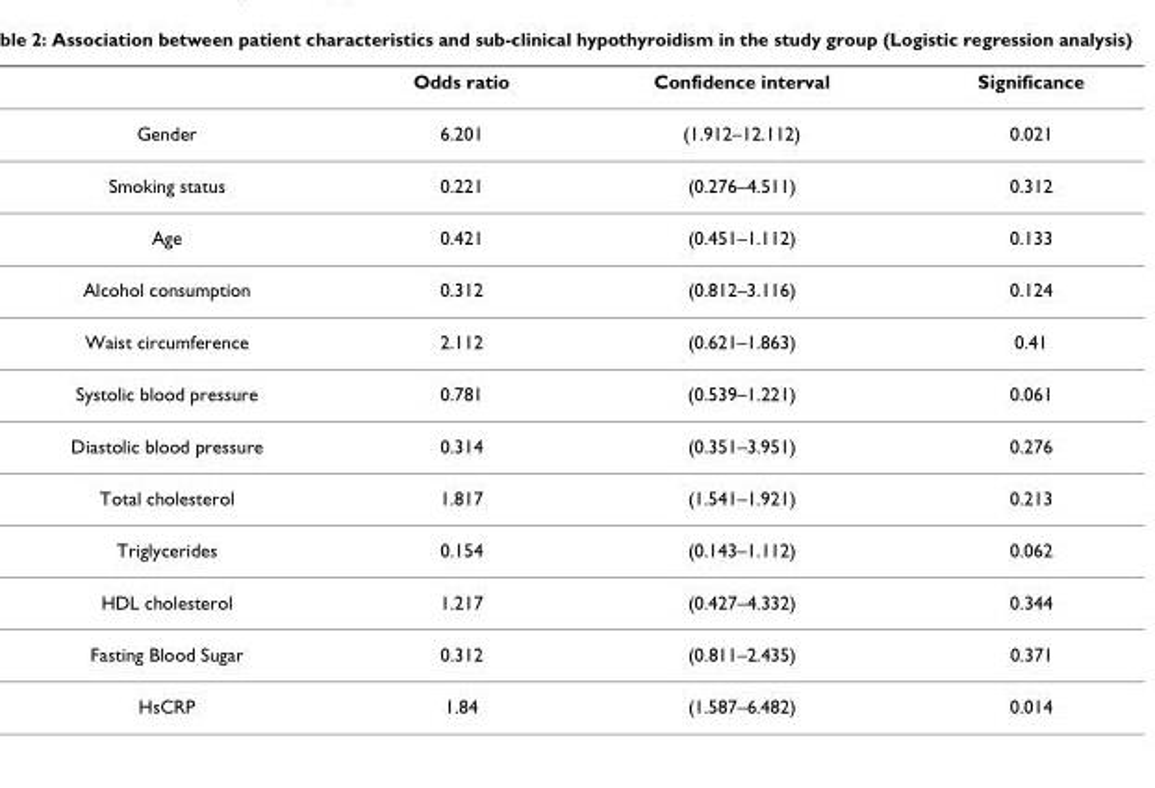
<table><thead><tr><td></td><td>Odds ratio</td><td>Confidence interval</td><td>Significance</td></tr></thead><tbody><tr><td>Gender</td><td>6.201</td><td>(1.912–12.112)</td><td>0.021</td></tr><tr><td>Smoking status</td><td>0.221</td><td>(0.276–4.511)</td><td>0.312</td></tr><tr><td>Age</td><td>0.421</td><td>(0.451–1.112)</td><td>0.133</td></tr><tr><td>Alcohol consumption</td><td>0.312</td><td>(0.812–3.116)</td><td>0.124</td></tr><tr><td>Waist circumference</td><td>2.112</td><td>(0.621–1.863)</td><td>0.41</td></tr><tr><td>Systolic blood pressure</td><td>0.781</td><td>(0.539–1.221)</td><td>0.061</td></tr><tr><td>Diastolic blood pressure</td><td>0.314</td><td>(0.351–3.951)</td><td>0.276</td></tr><tr><td>Total cholesterol</td><td>1.817</td><td>(1.541–1.921)</td><td>0.213</td></tr><tr><td>Triglycerides</td><td>0.154</td><td>(0.143–1.112)</td><td>0.062</td></tr><tr><td>HDL cholesterol</td><td>1.217</td><td>(0.427–4.332)</td><td>0.344</td></tr><tr><td>Fasting Blood Sugar</td><td>0.312</td><td>(0.811–2.435)</td><td>0.371</td></tr><tr><td>HsCRP</td><td>1.84</td><td>(1.587–6.482)</td><td>0.014</td></tr></tbody></table>